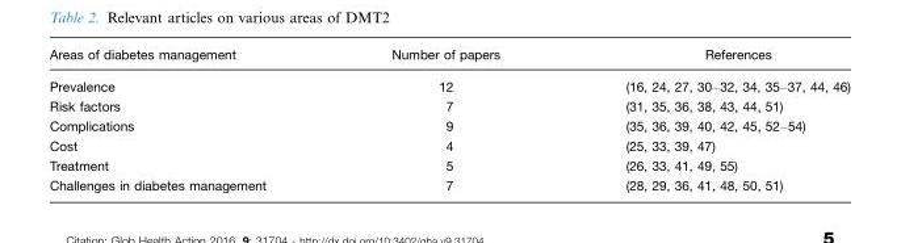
<table><thead><tr><td>Areas of diabetes management</td><td>Number of papers</td><td>References</td></tr></thead><tbody><tr><td>Prevalence</td><td>12</td><td>(16, 24, 27, 30–32, 34, 35–37, 44, 46)</td></tr><tr><td>Risk factors</td><td>7</td><td>(31, 35, 36, 38, 43, 44, 51)</td></tr><tr><td>Complications</td><td>9</td><td>(35, 36, 39, 40, 42, 45, 52–54)</td></tr><tr><td>Cost</td><td>4</td><td>(25, 33, 39, 47)</td></tr><tr><td>Treatment</td><td>5</td><td>(26, 33, 41, 49, 55)</td></tr><tr><td>Challenges in diabetes management</td><td>7</td><td>(28, 29, 36, 41, 48, 50, 51)</td></tr></tbody></table>